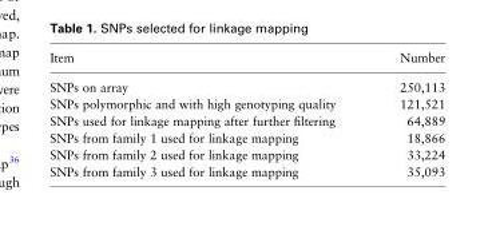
<table><thead><tr><td>Item</td><td>Number</td></tr></thead><tbody><tr><td>SNPs on array</td><td>250,113</td></tr><tr><td>SNPs polymorphic and with high genotyping quality</td><td>121,521</td></tr><tr><td>SNPs used for linkage mapping after further filtering</td><td>64,889</td></tr><tr><td>SNPs from family 1 used for linkage mapping</td><td>18,866</td></tr><tr><td>SNPs from family 2 used for linkage mapping</td><td>33,224</td></tr><tr><td>SNPs from family 3 used for linkage mapping</td><td>35,093</td></tr></tbody></table>